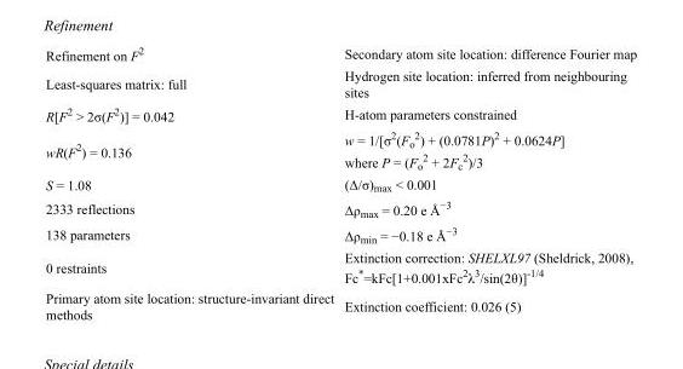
<table><tbody><tr><td>Refinement on F<sup>2</sup></td><td>Secondary atom site location: difference Fourier map</td></tr><tr><td>Least-squares matrix: full</td><td>Hydrogen site location: inferred from neighbouring sites</td></tr><tr><td>R[F<sup>2</sup> &gt; 2σ(F<sup>2</sup>)] = 0.042</td><td>H-atom parameters constrained</td></tr><tr><td>wR(F<sup>2</sup>) = 0.136</td><td>w = 1/[σ<sup>2</sup>(F<sub>o</sub> <sup>2</sup>) + (0.0781P)<sup>2</sup> + 0.0624P] where P = (F<sub>o</sub> <sup>2</sup> + 2F<sub>c</sub> <sup>2</sup>)/3</td></tr><tr><td>S = 1.08</td><td>(Δ/σ)<sub>max</sub> &lt; 0.001</td></tr><tr><td>2333 reflections</td><td>Δρ<sub>max</sub> = 0.20 e Å<sup>−3</sup></td></tr><tr><td>138 parameters</td><td>Δρ<sub>min</sub> = −0.18 e Å<sup>−3</sup></td></tr><tr><td>0 restraints</td><td>Extinction correction: SHELXL97 (Sheldrick, 2008), Fc*=kFc[1+0.001xFc<sup>2</sup>λ<sup>3</sup>/sin(2θ)]<sup>-1/4</sup></td></tr><tr><td>Primary atom site location: structure-invariant direct methods</td><td>Extinction coefficient: 0.026 (5)</td></tr></tbody></table>